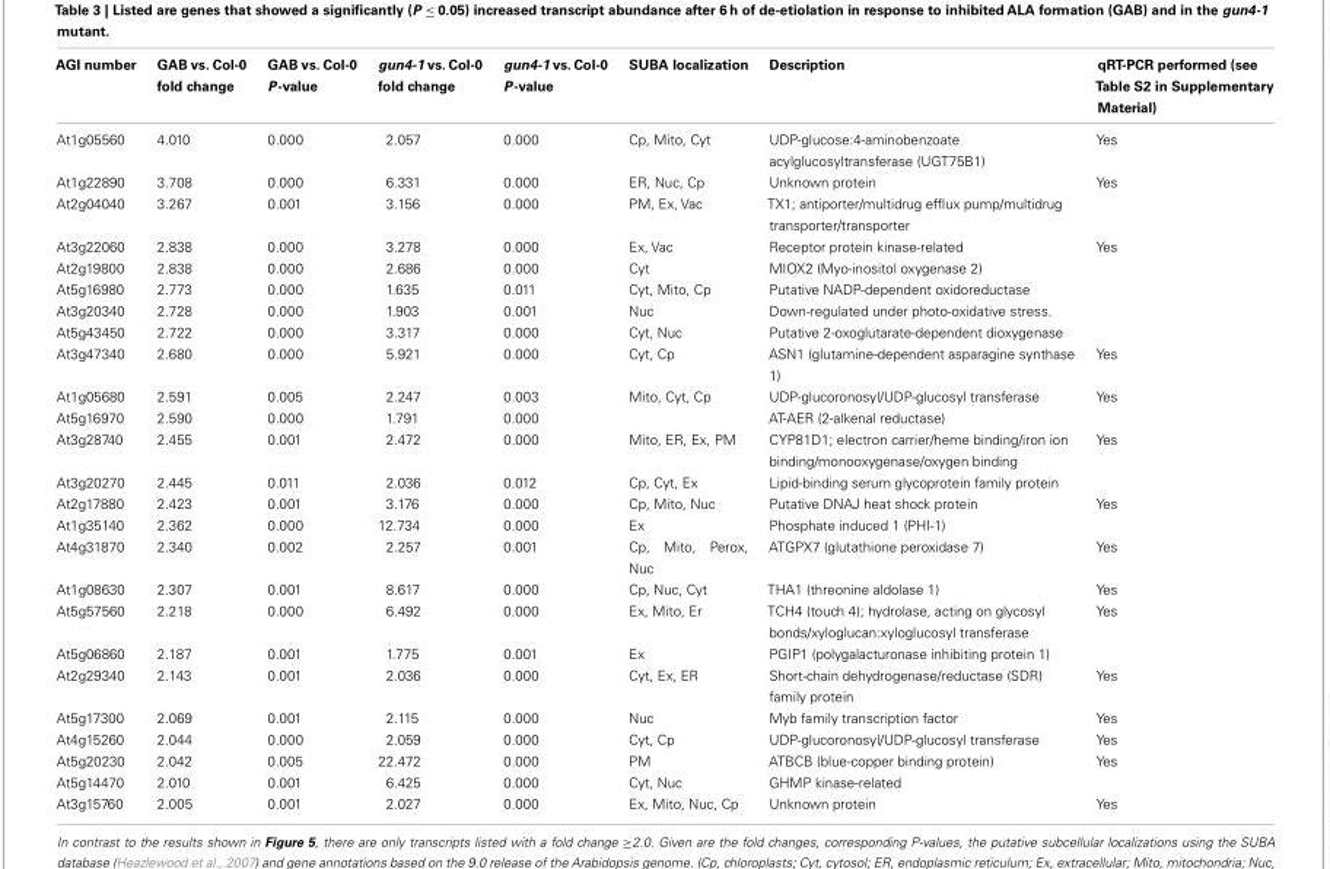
<table><thead><tr><td>AGI number</td><td>GAB vs. Col-0 fold change</td><td>GAB vs. Col-0 P-value</td><td>gun4-1 vs. Col-0 fold change</td><td>gun4-1 vs. Col-0 P-value</td><td>SUBA localization</td><td>Description</td><td>qRT-PCR performed (see Table S2 in Supplementary Material)</td></tr></thead><tbody><tr><td>At1g05560</td><td>4.010</td><td>0.000</td><td>2.057</td><td>0.000</td><td>Cp, Mito, Cyt</td><td>UDP-glucose:4-aminobenzoate acylglucosyltransferase (UGT75B1)</td><td>Yes</td></tr><tr><td>At1g22890</td><td>3.708</td><td>0.000</td><td>6.331</td><td>0.000</td><td>ER, Nuc, Cp</td><td>Unknown protein</td><td>Yes</td></tr><tr><td>At2g04040</td><td>3.267</td><td>0.001</td><td>3.156</td><td>0.000</td><td>PM, Ex, Vac</td><td>TX1; antiporter/multidrug efflux pump/multidrug transporter/transporter</td><td></td></tr><tr><td>At3g22060</td><td>2.838</td><td>0.000</td><td>3.278</td><td>0.000</td><td>Ex, Vac</td><td>Receptor protein kinase-related</td><td>Yes</td></tr><tr><td>At2g19800</td><td>2.838</td><td>0.000</td><td>2.686</td><td>0.000</td><td>Cyt</td><td>MIOX2 (Myo-inositol oxygenase 2)</td><td></td></tr><tr><td>At5g16980</td><td>2.773</td><td>0.000</td><td>1.635</td><td>0.011</td><td>Cyt, Mito, Cp</td><td>Putative NADP-dependent oxidoreductase</td><td></td></tr><tr><td>At3g20340</td><td>2.728</td><td>0.000</td><td>1.903</td><td>0.001</td><td>Nuc</td><td>Down-regulated under photo-oxidative stress.</td><td></td></tr><tr><td>At5g43450</td><td>2.722</td><td>0.000</td><td>3.317</td><td>0.000</td><td>Cyt, Nuc</td><td>Putative 2-oxoglutarate-dependent dioxygenase</td><td></td></tr><tr><td>At3g47340</td><td>2.680</td><td>0.000</td><td>5.921</td><td>0.000</td><td>Cyt, Cp</td><td>ASN1 (glutamine-dependent asparagine synthase 1)</td><td>Yes</td></tr><tr><td>At1g05680</td><td>2.591</td><td>0.005</td><td>2.247</td><td>0.003</td><td>Mito, Cyt, Cp</td><td>UDP-glucoronosyl/UDP-glucosyl transferase</td><td>Yes</td></tr><tr><td>At5g16970</td><td>2.590</td><td>0.000</td><td>1.791</td><td>0.000</td><td></td><td>AT-AER (2-alkenal reductase)</td><td></td></tr><tr><td>At3g28740</td><td>2.455</td><td>0.001</td><td>2.472</td><td>0.000</td><td>Mito, ER, Ex, PM</td><td>CYP81D1; electron carrier/heme binding/iron ion binding/monooxygenase/oxygen binding</td><td>Yes</td></tr><tr><td>At3g20270</td><td>2.445</td><td>0.011</td><td>2.036</td><td>0.012</td><td>Cp, Cyt, Ex</td><td>Lipid-binding serum glycoprotein family protein</td><td></td></tr><tr><td>At2g17880</td><td>2.423</td><td>0.001</td><td>3.176</td><td>0.000</td><td>Cp, Mito, Nuc</td><td>Putative DNAJ heat shock protein</td><td>Yes</td></tr><tr><td>At1g35140</td><td>2.362</td><td>0.000</td><td>12.734</td><td>0.000</td><td>Ex</td><td>Phosphate induced 1 (PHI-1)</td><td></td></tr><tr><td>At4g31870</td><td>2.340</td><td>0.002</td><td>2.257</td><td>0.001</td><td>Cp, Mito, Perox, Nuc</td><td>ATGPX7 (glutathione peroxidase 7)</td><td>Yes</td></tr><tr><td>At1g08630</td><td>2.307</td><td>0.001</td><td>8.617</td><td>0.000</td><td>Cp, Nuc, Cyt</td><td>THA1 (threonine aldolase 1)</td><td>Yes</td></tr><tr><td>At5g57560</td><td>2.218</td><td>0.000</td><td>6.492</td><td>0.000</td><td>Ex, Mito, Er</td><td>TCH4 (touch 4); hydrolase, acting on glycosyl bonds/xyloglucan:xyloglucosyl transferase</td><td>Yes</td></tr><tr><td>At5g06860</td><td>2.187</td><td>0.001</td><td>1.775</td><td>0.001</td><td>Ex</td><td>PGIP1 (polygalacturonase inhibiting protein 1)</td><td></td></tr><tr><td>At2g29340</td><td>2.143</td><td>0.001</td><td>2.036</td><td>0.000</td><td>Cyt, Ex, ER</td><td>Short-chain dehydrogenase/reductase (SDR) family protein</td><td>Yes</td></tr><tr><td>At5g17300</td><td>2.069</td><td>0.001</td><td>2.115</td><td>0.000</td><td>Nuc</td><td>Myb family transcription factor</td><td>Yes</td></tr><tr><td>At4g15260</td><td>2.044</td><td>0.000</td><td>2.059</td><td>0.000</td><td>Cyt, Cp</td><td>UDP-glucoronosyl/UDP-glucosyl transferase</td><td>Yes</td></tr><tr><td>At5g20230</td><td>2.042</td><td>0.005</td><td>22.472</td><td>0.000</td><td>PM</td><td>ATBCB (blue-copper binding protein)</td><td>Yes</td></tr><tr><td>At5g14470</td><td>2.010</td><td>0.001</td><td>6.425</td><td>0.000</td><td>Cyt, Nuc</td><td>GHMP kinase-related</td><td></td></tr><tr><td>At3g15760</td><td>2.005</td><td>0.001</td><td>2.027</td><td>0.000</td><td>Ex, Mito, Nuc, Cp</td><td>Unknown protein</td><td>Yes</td></tr></tbody></table>